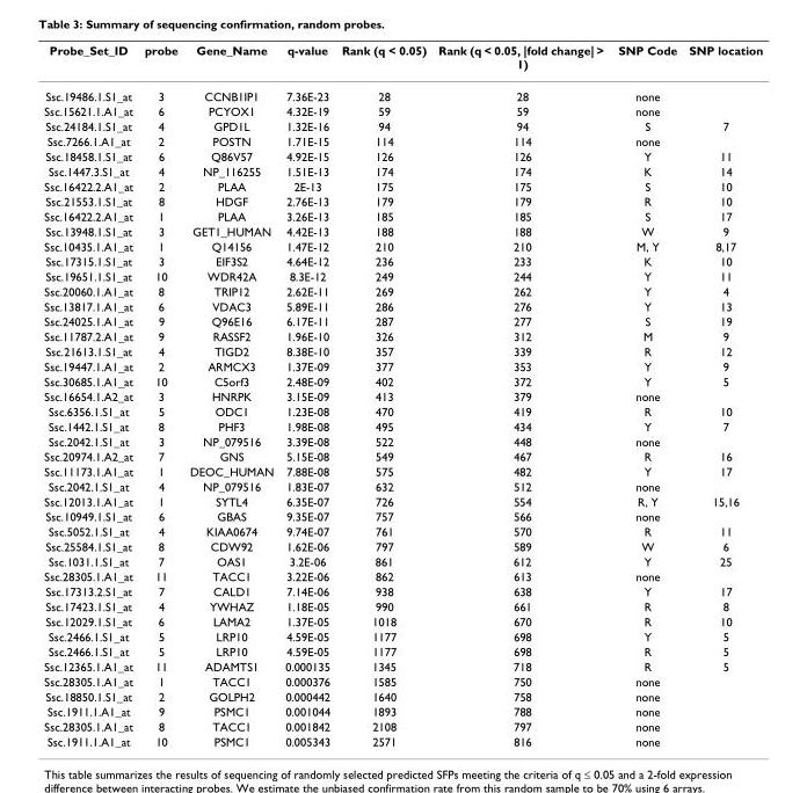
<table><thead><tr><td>Probe_Set_ID</td><td>probe</td><td>Gene_Name</td><td>q-value</td><td>Rank (q &lt; 0.05)</td><td>Rank (q &lt; 0.05, |fold change| &gt; 1)</td><td>SNP Code</td><td>SNP location</td></tr></thead><tbody><tr><td>Ssc.19486.1.S1_at</td><td>3</td><td>CCNB1IP1</td><td>7.36E-23</td><td>28</td><td>28</td><td>none</td><td></td></tr><tr><td>Ssc.15621.1.A1_at</td><td>6</td><td>PCYOX1</td><td>4.32E-19</td><td>59</td><td>59</td><td>none</td><td></td></tr><tr><td>Ssc.24184.1.S1_at</td><td>4</td><td>GPD1L</td><td>1.32E-16</td><td>94</td><td>94</td><td>S</td><td>7</td></tr><tr><td>Ssc.7266.1.A1_at</td><td>2</td><td>POSTN</td><td>1.71E-15</td><td>114</td><td>114</td><td>none</td><td></td></tr><tr><td>Ssc.18458.1.S1_at</td><td>6</td><td>Q86V57</td><td>4.92E-15</td><td>126</td><td>126</td><td>Y</td><td>11</td></tr><tr><td>Ssc.1447.3.S1_at</td><td>4</td><td>NP_116255</td><td>1.51E-13</td><td>174</td><td>174</td><td>K</td><td>14</td></tr><tr><td>Ssc.16422.2.A1_at</td><td>2</td><td>PLAA</td><td>2E-13</td><td>175</td><td>175</td><td>S</td><td>10</td></tr><tr><td>Ssc.21553.1.S1_at</td><td>8</td><td>HDGF</td><td>2.76E-13</td><td>179</td><td>179</td><td>R</td><td>10</td></tr><tr><td>Ssc.16422.2.A1_at</td><td>1</td><td>PLAA</td><td>3.26E-13</td><td>185</td><td>185</td><td>S</td><td>17</td></tr><tr><td>Ssc.13948.1.S1_at</td><td>3</td><td>GET1_HUMAN</td><td>4.42E-13</td><td>188</td><td>188</td><td>W</td><td>9</td></tr><tr><td>Ssc.10435.1.A1_at</td><td>1</td><td>Q14156</td><td>1.47E-12</td><td>210</td><td>210</td><td>M, Y</td><td>8,17</td></tr><tr><td>Ssc.17315.1.S1_at</td><td>3</td><td>EIF3S2</td><td>4.64E-12</td><td>236</td><td>233</td><td>K</td><td>10</td></tr><tr><td>Ssc.19651.1.S1_at</td><td>10</td><td>WDR42A</td><td>8.3E-12</td><td>249</td><td>244</td><td>Y</td><td>11</td></tr><tr><td>Ssc.20060.1.A1_at</td><td>8</td><td>TRIP12</td><td>2.62E-11</td><td>269</td><td>262</td><td>Y</td><td>4</td></tr><tr><td>Ssc.13817.1.A1_at</td><td>6</td><td>VDAC3</td><td>5.89E-11</td><td>286</td><td>276</td><td>Y</td><td>13</td></tr><tr><td>Ssc.24025.1.A1_at</td><td>9</td><td>Q96E16</td><td>6.17E-11</td><td>287</td><td>277</td><td>S</td><td>19</td></tr><tr><td>Ssc.11787.2.A1_at</td><td>9</td><td>RASSF2</td><td>1.96E-10</td><td>326</td><td>312</td><td>M</td><td>9</td></tr><tr><td>Ssc.21613.1.S1_at</td><td>4</td><td>TIGD2</td><td>8.38E-10</td><td>357</td><td>339</td><td>R</td><td>12</td></tr><tr><td>Ssc.19447.1.A1_at</td><td>2</td><td>ARMCX3</td><td>1.37E-09</td><td>377</td><td>353</td><td>Y</td><td>9</td></tr><tr><td>Ssc.30685.1.A1_at</td><td>10</td><td>C5orf3</td><td>2.48E-09</td><td>402</td><td>372</td><td>Y</td><td>5</td></tr><tr><td>Ssc.16654.1.A2_at</td><td>3</td><td>HNRPK</td><td>3.15E-09</td><td>413</td><td>379</td><td>none</td><td></td></tr><tr><td>Ssc.6356.1.S1_at</td><td>5</td><td>ODC1</td><td>1.23E-08</td><td>470</td><td>419</td><td>R</td><td>10</td></tr><tr><td>Ssc.1442.1.S1_at</td><td>8</td><td>PHF3</td><td>1.98E-08</td><td>495</td><td>434</td><td>Y</td><td>7</td></tr><tr><td>Ssc.2042.1.S1_at</td><td>3</td><td>NP_079516</td><td>3.39E-08</td><td>522</td><td>448</td><td>none</td><td></td></tr><tr><td>Ssc.20974.1.A2_at</td><td>7</td><td>GNS</td><td>5.15E-08</td><td>549</td><td>467</td><td>R</td><td>16</td></tr><tr><td>Ssc.11173.1.A1_at</td><td>1</td><td>DEOC_HUMAN</td><td>7.88E-08</td><td>575</td><td>482</td><td>Y</td><td>17</td></tr><tr><td>Ssc.2042.1.S1_at</td><td>4</td><td>NP_079516</td><td>1.83E-07</td><td>632</td><td>512</td><td>none</td><td></td></tr><tr><td>Ssc.12013.1.A1_at</td><td>1</td><td>SYTL4</td><td>6.35E-07</td><td>726</td><td>554</td><td>R, Y</td><td>15,16</td></tr><tr><td>Ssc.10949.1.S1_at</td><td>6</td><td>GBAS</td><td>9.35E-07</td><td>757</td><td>566</td><td>none</td><td></td></tr><tr><td>Ssc.5052.1.S1_at</td><td>4</td><td>KIAA0674</td><td>9.74E-07</td><td>761</td><td>570</td><td>R</td><td>11</td></tr><tr><td>Ssc.25584.1.S1_at</td><td>8</td><td>CDW92</td><td>1.62E-06</td><td>797</td><td>589</td><td>W</td><td>6</td></tr><tr><td>Ssc.1031.1.S1_at</td><td>7</td><td>OAS1</td><td>3.2E-06</td><td>861</td><td>612</td><td>Y</td><td>25</td></tr><tr><td>Ssc.28305.1.A1_at</td><td>11</td><td>TACC1</td><td>3.22E-06</td><td>862</td><td>613</td><td>none</td><td></td></tr><tr><td>Ssc.17313.2.S1_at</td><td>7</td><td>CALD1</td><td>7.14E-06</td><td>938</td><td>638</td><td>Y</td><td>17</td></tr><tr><td>Ssc.17423.1.S1_at</td><td>4</td><td>YWHAZ</td><td>1.18E-05</td><td>990</td><td>661</td><td>R</td><td>8</td></tr><tr><td>Ssc.12029.1.S1_at</td><td>6</td><td>LAMA2</td><td>1.37E-05</td><td>1018</td><td>670</td><td>R</td><td>10</td></tr><tr><td>Ssc.2466.1.S1_at</td><td>5</td><td>LRP10</td><td>4.59E-05</td><td>1177</td><td>698</td><td>Y</td><td>5</td></tr><tr><td>Ssc.2466.1.S1_at</td><td>5</td><td>LRP10</td><td>4.59E-05</td><td>1177</td><td>698</td><td>R</td><td>5</td></tr><tr><td>Ssc.12365.1.A1_at</td><td>11</td><td>ADAMTS1</td><td>0.000135</td><td>1345</td><td>718</td><td>R</td><td>5</td></tr><tr><td>Ssc.28305.1.A1_at</td><td>1</td><td>TACC1</td><td>0.000376</td><td>1585</td><td>750</td><td>none</td><td></td></tr><tr><td>Ssc.18850.1.S1_at</td><td>2</td><td>GOLPH2</td><td>0.000442</td><td>1640</td><td>758</td><td>none</td><td></td></tr><tr><td>Ssc.1911.1.A1_at</td><td>9</td><td>PSMC1</td><td>0.001044</td><td>1893</td><td>788</td><td>none</td><td></td></tr><tr><td>Ssc.28305.1.A1_at</td><td>8</td><td>TACC1</td><td>0.001842</td><td>2108</td><td>797</td><td>none</td><td></td></tr><tr><td>Ssc.1911.1.A1_at</td><td>10</td><td>PSMC1</td><td>0.005343</td><td>2571</td><td>816</td><td>none</td><td></td></tr></tbody></table>